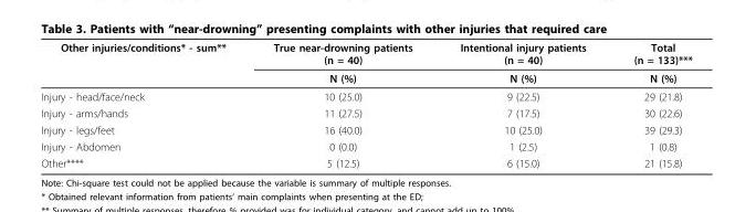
<table><thead><tr><td rowspan="2">Other injuries/conditions* - sum**</td><td rowspan="2">True near-drowning patients (n = 40) N (%)</td><td rowspan="2">Intentional injury patients (n = 40) N (%)</td><td rowspan="2">Total (n = 133)*** N (%)</td></tr><tr></tr></thead><tbody><tr><td>Injury - head/face/neck</td><td>10 (25.0)</td><td>9 (22.5)</td><td>29 (21.8)</td></tr><tr><td>Injury - arms/hands</td><td>11 (27.5)</td><td>7 (17.5)</td><td>30 (22.6)</td></tr><tr><td>Injury - legs/feet</td><td>16 (40.0)</td><td>10 (25.0)</td><td>39 (29.3)</td></tr><tr><td>Injury - Abdomen</td><td>0 (0.0)</td><td>1 (2.5)</td><td>1 (0.8)</td></tr><tr><td>Other****</td><td>5 (12.5)</td><td>6 (15.0)</td><td>21 (15.8)</td></tr></tbody></table>